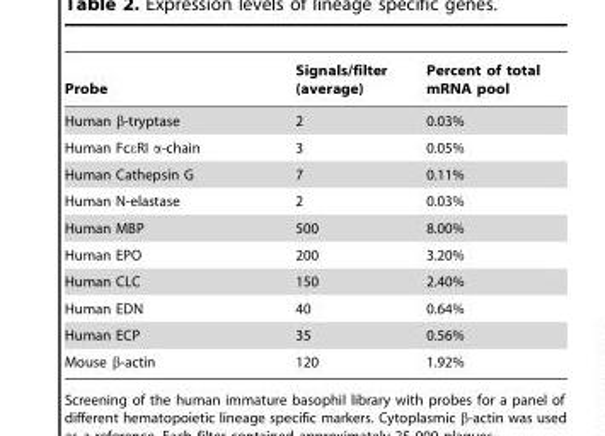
<table><thead><tr><td>Probe</td><td>Signals/filter (average)</td><td>Percent of total mRNA pool</td></tr></thead><tbody><tr><td>Human β-tryptase</td><td>2</td><td>0.03%</td></tr><tr><td>Human FcεRI α-chain</td><td>3</td><td>0.05%</td></tr><tr><td>Human Cathepsin G</td><td>7</td><td>0.11%</td></tr><tr><td>Human N-elastase</td><td>2</td><td>0.03%</td></tr><tr><td>Human MBP</td><td>500</td><td>8.00%</td></tr><tr><td>Human EPO</td><td>200</td><td>3.20%</td></tr><tr><td>Human CLC</td><td>150</td><td>2.40%</td></tr><tr><td>Human EDN</td><td>40</td><td>0.64%</td></tr><tr><td>Human ECP</td><td>35</td><td>0.56%</td></tr><tr><td>Mouse β-actin</td><td>120</td><td>1.92%</td></tr></tbody></table>